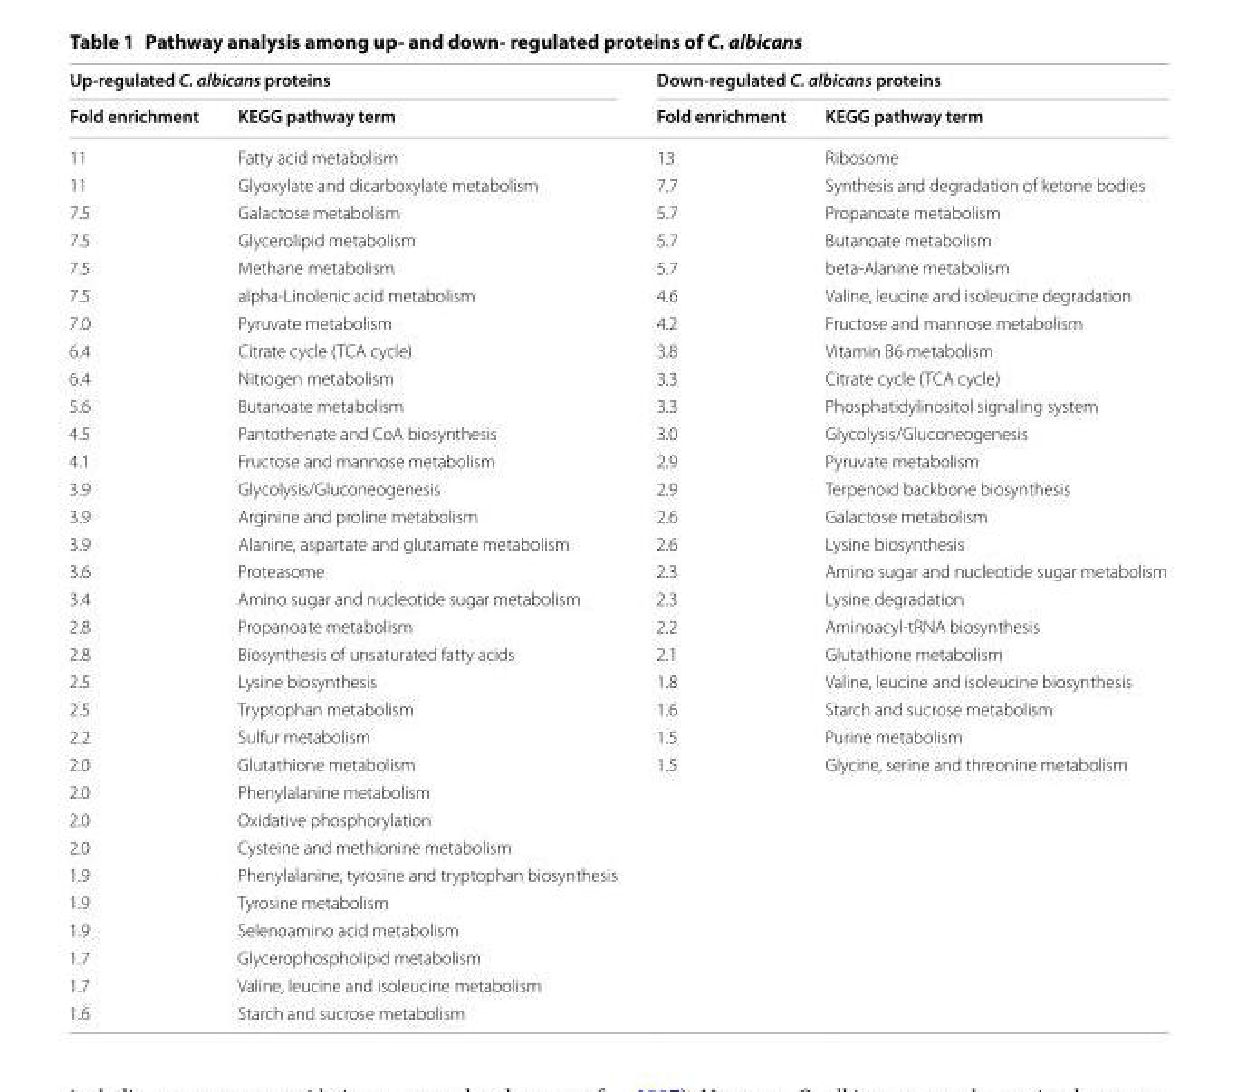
<table><thead><tr><td colspan="2">Up‑regulated C. albicans proteins</td><td colspan="2">Down‑regulated C. albicans proteins</td></tr><tr><td>Fold enrichment</td><td>KEGG pathway term</td><td>Fold enrichment</td><td>KEGG pathway term</td></tr></thead><tbody><tr><td>11</td><td>Fatty acid metabolism</td><td>13</td><td>Ribosome</td></tr><tr><td>11</td><td>Glyoxylate and dicarboxylate metabolism</td><td>7.7</td><td>Synthesis and degradation of ketone bodies</td></tr><tr><td>7.5</td><td>Galactose metabolism</td><td>5.7</td><td>Propanoate metabolism</td></tr><tr><td>7.5</td><td>Glycerolipid metabolism</td><td>5.7</td><td>Butanoate metabolism</td></tr><tr><td>7.5</td><td>Methane metabolism</td><td>5.7</td><td>betaAlanine metabolism</td></tr><tr><td>7.5</td><td>alphaLinolenic acid metabolism</td><td>4.6</td><td>Valine, leucine and isoleucine degradation</td></tr><tr><td>7.0</td><td>Pyruvate metabolism</td><td>4.2</td><td>Fructose and mannose metabolism</td></tr><tr><td>6.4</td><td>Citrate cycle (TCA cycle)</td><td>3.8</td><td>Vitamin B6 metabolism</td></tr><tr><td>6.4</td><td>Nitrogen metabolism</td><td>3.3</td><td>Citrate cycle (TCA cycle)</td></tr><tr><td>5.6</td><td>Butanoate metabolism</td><td>3.3</td><td>Phosphatidylinositol signaling system</td></tr><tr><td>4.5</td><td>Pantothenate and CoA biosynthesis</td><td>3.0</td><td>Glycolysis/Gluconeogenesis</td></tr><tr><td>4.1</td><td>Fructose and mannose metabolism</td><td>2.9</td><td>Pyruvate metabolism</td></tr><tr><td>3.9</td><td>Glycolysis/Gluconeogenesis</td><td>2.9</td><td>Terpenoid backbone biosynthesis</td></tr><tr><td>3.9</td><td>Arginine and proline metabolism</td><td>2.6</td><td>Galactose metabolism</td></tr><tr><td>3.9</td><td>Alanine, aspartate and glutamate metabolism</td><td>2.6</td><td>Lysine biosynthesis</td></tr><tr><td>3.6</td><td>Proteasome</td><td>2.3</td><td>Amino sugar and nucleotide sugar metabolism</td></tr><tr><td>3.4</td><td>Amino sugar and nucleotide sugar metabolism</td><td>2.3</td><td>Lysine degradation</td></tr><tr><td>2.8</td><td>Propanoate metabolism</td><td>2.2</td><td>AminoacyltRNA biosynthesis</td></tr><tr><td>2.8</td><td>Biosynthesis of unsaturated fatty acids</td><td>2.1</td><td>Glutathione metabolism</td></tr><tr><td>2.5</td><td>Lysine biosynthesis</td><td>1.8</td><td>Valine, leucine and isoleucine biosynthesis</td></tr><tr><td>2.5</td><td>Tryptophan metabolism</td><td>1.6</td><td>Starch and sucrose metabolism</td></tr><tr><td>2.2</td><td>Sulfur metabolism</td><td>1.5</td><td>Purine metabolism</td></tr><tr><td>2.0</td><td>Glutathione metabolism</td><td>1.5</td><td>Glycine, serine and threonine metabolism</td></tr><tr><td>2.0</td><td>Phenylalanine metabolism</td><td></td><td></td></tr><tr><td>2.0</td><td>Oxidative phosphorylation</td><td></td><td></td></tr><tr><td>2.0</td><td>Cysteine and methionine metabolism</td><td></td><td></td></tr><tr><td>1.9</td><td>Phenylalanine, tyrosine and tryptophan biosynthesis</td><td></td><td></td></tr><tr><td>1.9</td><td>Tyrosine metabolism</td><td></td><td></td></tr><tr><td>1.9</td><td>Selenoamino acid metabolism</td><td></td><td></td></tr><tr><td>1.7</td><td>Glycerophospholipid metabolism</td><td></td><td></td></tr><tr><td>1.7</td><td>Valine, leucine and isoleucine metabolism</td><td></td><td></td></tr><tr><td>1.6</td><td>Starch and sucrose metabolism</td><td></td><td></td></tr></tbody></table>